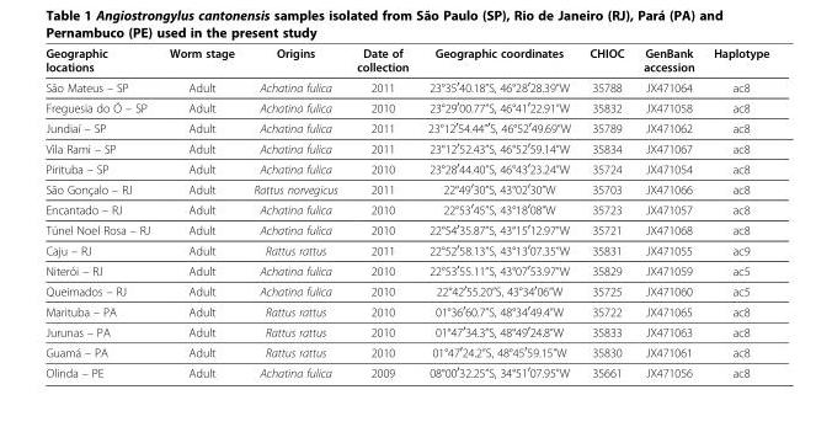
<table><thead><tr><td>Geographic locations</td><td>Worm stage</td><td>Origins</td><td>Date of collection</td><td>Geographic coordinates</td><td>CHIOC</td><td>GenBank accession</td><td>Haplotype</td></tr></thead><tbody><tr><td>São Mateus – SP</td><td>Adult</td><td>Achatina fulica</td><td>2011</td><td>23°35<sup>′</sup>40.18”S, 46°28<sup>′</sup>28.39”W</td><td>35788</td><td>JX471064</td><td>ac8</td></tr><tr><td>Freguesia do Ó – SP</td><td>Adult</td><td>Achatina fulica</td><td>2010</td><td>23°29<sup>′</sup>00.77”S, 46°41<sup>′</sup>22.91”W</td><td>35832</td><td>JX471058</td><td>ac8</td></tr><tr><td>Jundiaí – SP</td><td>Adult</td><td>Achatina fulica</td><td>2011</td><td>23°12<sup>′</sup>54.44”<sup>′</sup>S, 46°52<sup>′</sup>49.69”W</td><td>35789</td><td>JX471062</td><td>ac8</td></tr><tr><td>Vila Rami – SP</td><td>Adult</td><td>Achatina fulica</td><td>2011</td><td>23°12<sup>′</sup>52.43”S, 46°52<sup>′</sup>59.14”W</td><td>35834</td><td>JX471067</td><td>ac8</td></tr><tr><td>Pirituba – SP</td><td>Adult</td><td>Achatina fulica</td><td>2010</td><td>23°28<sup>′</sup>44.40”S, 46°43<sup>′</sup>23.24”W</td><td>35724</td><td>JX471054</td><td>ac8</td></tr><tr><td>São Gonçalo – RJ</td><td>Adult</td><td>Rattus norvegicus</td><td>2011</td><td>22°49<sup>′</sup>30”S, 43°02<sup>′</sup>30”W</td><td>35703</td><td>JX471066</td><td>ac8</td></tr><tr><td>Encantado – RJ</td><td>Adult</td><td>Achatina fulica</td><td>2010</td><td>22°53<sup>′</sup>45”S, 43°18<sup>′</sup>08”W</td><td>35723</td><td>JX471057</td><td>ac8</td></tr><tr><td>Túnel Noel Rosa – RJ</td><td>Adult</td><td>Achatina fulica</td><td>2010</td><td>22°54<sup>′</sup>35.87”S, 43°15<sup>′</sup>12.97”W</td><td>35721</td><td>JX471068</td><td>ac8</td></tr><tr><td>Caju – RJ</td><td>Adult</td><td>Rattus rattus</td><td>2011</td><td>22°52<sup>′</sup>58.13”S, 43°13<sup>′</sup>07.35”W</td><td>35831</td><td>JX471055</td><td>ac9</td></tr><tr><td>Niterói – RJ</td><td>Adult</td><td>Achatina fulica</td><td>2010</td><td>22°53<sup>′</sup>55.11”S, 43°07<sup>′</sup>53.97”W</td><td>35829</td><td>JX471059</td><td>ac5</td></tr><tr><td>Queimados – RJ</td><td>Adult</td><td>Achatina fulica</td><td>2010</td><td>22°42<sup>′</sup>55.20”S, 43°34<sup>′</sup>06”W</td><td>35725</td><td>JX471060</td><td>ac5</td></tr><tr><td>Marituba – PA</td><td>Adult</td><td>Rattus rattus</td><td>2010</td><td>01°36<sup>′</sup>60.7”S, 48°34<sup>′</sup>49.4”W</td><td>35722</td><td>JX471065</td><td>ac8</td></tr><tr><td>Jurunas – PA</td><td>Adult</td><td>Rattus rattus</td><td>2010</td><td>01°47<sup>′</sup>34.3”S, 48°49<sup>′</sup>24.8”W</td><td>35833</td><td>JX471063</td><td>ac8</td></tr><tr><td>Guamá – PA</td><td>Adult</td><td>Rattus rattus</td><td>2010</td><td>01°47<sup>′</sup>24.2”S, 48°45<sup>′</sup>59.15”W</td><td>35830</td><td>JX471061</td><td>ac8</td></tr><tr><td>Olinda – PE</td><td>Adult</td><td>Achatina fulica</td><td>2009</td><td>08°00<sup>′</sup>32.25”S, 34°51<sup>′</sup>07.95”W</td><td>35661</td><td>JX471056</td><td>ac8</td></tr></tbody></table>